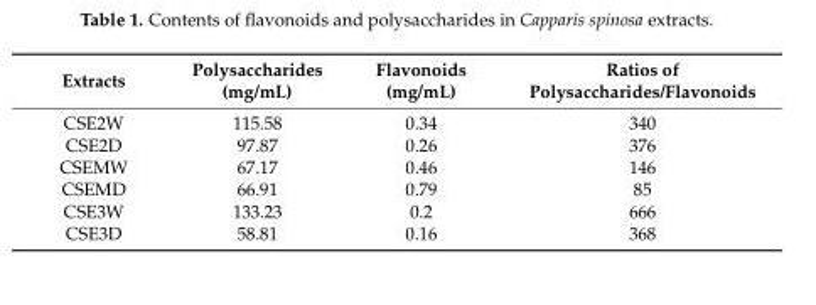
<table><thead><tr><td>Extracts</td><td>Polysaccharides (mg/mL)</td><td>Flavonoids (mg/mL)</td><td>Ratios of Polysaccharides/Flavonoids</td></tr></thead><tbody><tr><td>CSE2W</td><td>115.58</td><td>0.34</td><td>340</td></tr><tr><td>CSE2D</td><td>97.87</td><td>0.26</td><td>376</td></tr><tr><td>CSEMW</td><td>67.17</td><td>0.46</td><td>146</td></tr><tr><td>CSEMD</td><td>66.91</td><td>0.79</td><td>85</td></tr><tr><td>CSE3W</td><td>133.23</td><td>0.2</td><td>666</td></tr><tr><td>CSE3D</td><td>58.81</td><td>0.16</td><td>368</td></tr></tbody></table>